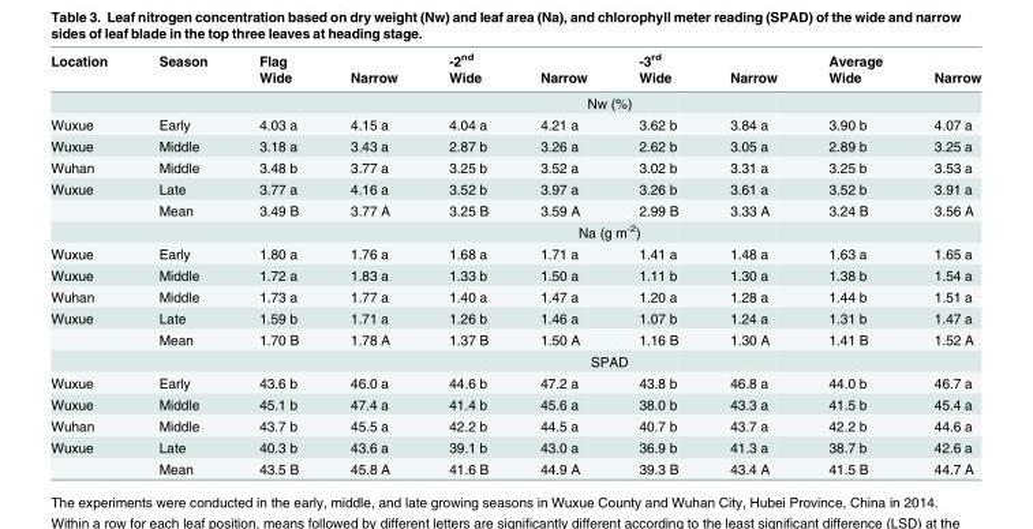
<table><thead><tr><td rowspan="2">Location</td><td rowspan="2">Season</td><td rowspan="2">Flag Wide</td><td rowspan="2">Narrow</td><td rowspan="2">-2<sup>nd</sup> Wide</td><td rowspan="2">Narrow</td><td rowspan="2">-3<sup>rd</sup> Wide</td><td rowspan="2">Narrow</td><td rowspan="2">Average Wide</td><td rowspan="2">Narrow</td></tr><tr></tr></thead><tbody><tr><td></td><td></td><td></td><td></td><td></td><td colspan="2">Nw (%)</td><td></td><td></td><td></td></tr><tr><td>Wuxue</td><td>Early</td><td>4.03 a</td><td>4.15 a</td><td>4.04 a</td><td>4.21 a</td><td>3.62 b</td><td>3.84 a</td><td>3.90 b</td><td>4.07 a</td></tr><tr><td>Wuxue</td><td>Middle</td><td>3.18 a</td><td>3.43 a</td><td>2.87 b</td><td>3.26 a</td><td>2.62 b</td><td>3.05 a</td><td>2.89 b</td><td>3.25 a</td></tr><tr><td>Wuhan</td><td>Middle</td><td>3.48 b</td><td>3.77 a</td><td>3.25 b</td><td>3.52 a</td><td>3.02 b</td><td>3.31 a</td><td>3.25 b</td><td>3.53 a</td></tr><tr><td rowspan="3">Wuxue</td><td>Late</td><td>3.77 a</td><td>4.16 a</td><td>3.52 b</td><td>3.97 a</td><td>3.26 b</td><td>3.61 a</td><td>3.52 b</td><td>3.91 a</td></tr><tr><td>Mean</td><td>3.49 B</td><td>3.77 A</td><td>3.25 B</td><td>3.59 A</td><td>2.99 B</td><td>3.33 A</td><td>3.24 B</td><td>3.56 A</td></tr><tr><td></td><td></td><td></td><td></td><td colspan="2">Na (g m<sup>-2</sup>)</td><td></td><td></td><td></td></tr><tr><td>Wuxue</td><td>Early</td><td>1.80 a</td><td>1.76 a</td><td>1.68 a</td><td>1.71 a</td><td>1.41 a</td><td>1.48 a</td><td>1.63 a</td><td>1.65 a</td></tr><tr><td>Wuxue</td><td>Middle</td><td>1.72 a</td><td>1.83 a</td><td>1.33 b</td><td>1.50 a</td><td>1.11 b</td><td>1.30 a</td><td>1.38 b</td><td>1.54 a</td></tr><tr><td>Wuhan</td><td>Middle</td><td>1.73 a</td><td>1.77 a</td><td>1.40 a</td><td>1.47 a</td><td>1.20 a</td><td>1.28 a</td><td>1.44 b</td><td>1.51 a</td></tr><tr><td rowspan="3">Wuxue</td><td>Late</td><td>1.59 b</td><td>1.71 a</td><td>1.26 b</td><td>1.46 a</td><td>1.07 b</td><td>1.24 a</td><td>1.31 b</td><td>1.47 a</td></tr><tr><td>Mean</td><td>1.70 B</td><td>1.78 A</td><td>1.37 B</td><td>1.50 A</td><td>1.16 B</td><td>1.30 A</td><td>1.41 B</td><td>1.52 A</td></tr><tr><td></td><td></td><td></td><td></td><td colspan="2">SPAD</td><td></td><td></td><td></td></tr><tr><td>Wuxue</td><td>Early</td><td>43.6 b</td><td>46.0 a</td><td>44.6 b</td><td>47.2 a</td><td>43.8 b</td><td>46.8 a</td><td>44.0 b</td><td>46.7 a</td></tr><tr><td>Wuxue</td><td>Middle</td><td>45.1 b</td><td>47.4 a</td><td>41.4 b</td><td>45.6 a</td><td>38.0 b</td><td>43.3 a</td><td>41.5 b</td><td>45.4 a</td></tr><tr><td>Wuhan</td><td>Middle</td><td>43.7 b</td><td>45.5 a</td><td>42.2 b</td><td>44.5 a</td><td>40.7 b</td><td>43.7 a</td><td>42.2 b</td><td>44.6 a</td></tr><tr><td rowspan="2">Wuxue</td><td>Late</td><td>40.3 b</td><td>43.6 a</td><td>39.1 b</td><td>43.0 a</td><td>36.9 b</td><td>41.3 a</td><td>38.7 b</td><td>42.6 a</td></tr><tr><td>Mean</td><td>43.5 B</td><td>45.8 A</td><td>41.6 B</td><td>44.9 A</td><td>39.3 B</td><td>43.4 A</td><td>41.5 B</td><td>44.7 A</td></tr></tbody></table>